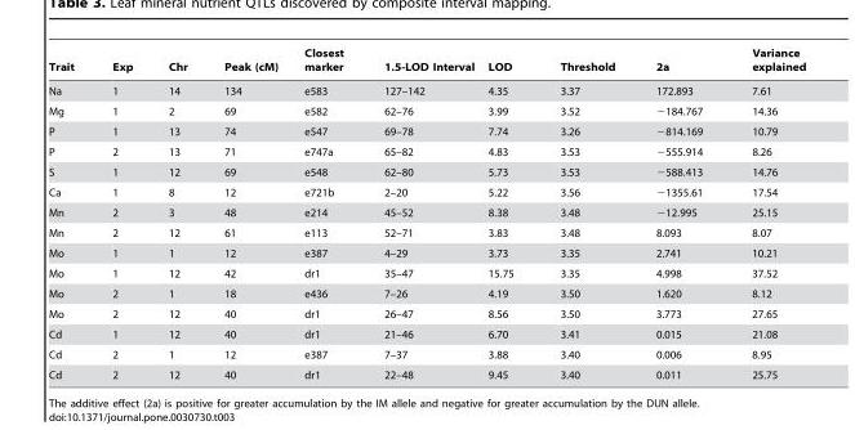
<table><thead><tr><td>Trait</td><td>Exp</td><td>Chr</td><td>Peak (cM)</td><td>Closest marker</td><td>1.5-LOD Interval</td><td>LOD</td><td>Threshold</td><td>2a</td><td>Variance explained</td></tr></thead><tbody><tr><td>Na</td><td>1</td><td>14</td><td>134</td><td>e583</td><td>127–142</td><td>4.35</td><td>3.37</td><td>172.893</td><td>7.61</td></tr><tr><td>Mg</td><td>1</td><td>2</td><td>69</td><td>e582</td><td>62–76</td><td>3.99</td><td>3.52</td><td>−184.767</td><td>14.36</td></tr><tr><td>P</td><td>1</td><td>13</td><td>74</td><td>e547</td><td>69–78</td><td>7.74</td><td>3.26</td><td>−814.169</td><td>10.79</td></tr><tr><td>P</td><td>2</td><td>13</td><td>71</td><td>e747a</td><td>65–82</td><td>4.83</td><td>3.53</td><td>−555.914</td><td>8.26</td></tr><tr><td>S</td><td>1</td><td>12</td><td>69</td><td>e548</td><td>62–80</td><td>5.73</td><td>3.53</td><td>−588.413</td><td>14.76</td></tr><tr><td>Ca</td><td>1</td><td>8</td><td>12</td><td>e721b</td><td>2–20</td><td>5.22</td><td>3.56</td><td>−1355.61</td><td>17.54</td></tr><tr><td>Mn</td><td>2</td><td>3</td><td>48</td><td>e214</td><td>45–52</td><td>8.38</td><td>3.48</td><td>−12.995</td><td>25.15</td></tr><tr><td>Mn</td><td>2</td><td>12</td><td>61</td><td>e113</td><td>52–71</td><td>3.83</td><td>3.48</td><td>8.093</td><td>8.07</td></tr><tr><td>Mo</td><td>1</td><td>1</td><td>12</td><td>e387</td><td>4–29</td><td>3.73</td><td>3.35</td><td>2.741</td><td>10.21</td></tr><tr><td>Mo</td><td>1</td><td>12</td><td>42</td><td>dr1</td><td>35–47</td><td>15.75</td><td>3.35</td><td>4.998</td><td>37.52</td></tr><tr><td>Mo</td><td>2</td><td>1</td><td>18</td><td>e436</td><td>7–26</td><td>4.19</td><td>3.50</td><td>1.620</td><td>8.12</td></tr><tr><td>Mo</td><td>2</td><td>12</td><td>40</td><td>dr1</td><td>26–47</td><td>8.56</td><td>3.50</td><td>3.773</td><td>27.65</td></tr><tr><td>Cd</td><td>1</td><td>12</td><td>40</td><td>dr1</td><td>21–46</td><td>6.70</td><td>3.41</td><td>0.015</td><td>21.08</td></tr><tr><td>Cd</td><td>2</td><td>1</td><td>12</td><td>e387</td><td>7–37</td><td>3.88</td><td>3.40</td><td>0.006</td><td>8.95</td></tr><tr><td>Cd</td><td>2</td><td>12</td><td>40</td><td>dr1</td><td>22–48</td><td>9.45</td><td>3.40</td><td>0.011</td><td>25.75</td></tr></tbody></table>